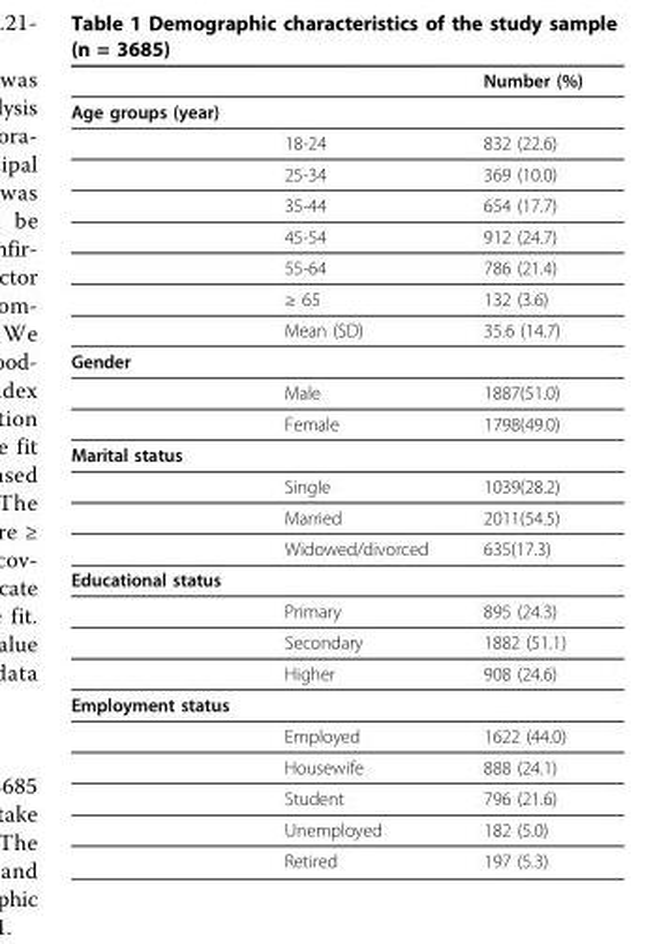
<table><thead><tr><td></td><td></td><td>Number (%)</td></tr></thead><tbody><tr><td colspan="3">Age groups (year)</td></tr><tr><td></td><td>18-24</td><td>832 (22.6)</td></tr><tr><td></td><td>25-34</td><td>369 (10.0)</td></tr><tr><td></td><td>35-44</td><td>654 (17.7)</td></tr><tr><td></td><td>45-54</td><td>912 (24.7)</td></tr><tr><td></td><td>55-64</td><td>786 (21.4)</td></tr><tr><td></td><td>≥ 65</td><td>132 (3.6)</td></tr><tr><td></td><td>Mean (SD)</td><td>35.6 (14.7)</td></tr><tr><td colspan="3">Gender</td></tr><tr><td></td><td>Male</td><td>1887(51.0)</td></tr><tr><td></td><td>Female</td><td>1798(49.0)</td></tr><tr><td colspan="3">Marital status</td></tr><tr><td></td><td>Single</td><td>1039(28.2)</td></tr><tr><td></td><td>Married</td><td>2011(54.5)</td></tr><tr><td></td><td>Widowed/divorced</td><td>635(17.3)</td></tr><tr><td colspan="3">Educational status</td></tr><tr><td></td><td>Primary</td><td>895 (24.3)</td></tr><tr><td></td><td>Secondary</td><td>1882 (51.1)</td></tr><tr><td></td><td>Higher</td><td>908 (24.6)</td></tr><tr><td colspan="3">Employment status</td></tr><tr><td></td><td>Employed</td><td>1622 (44.0)</td></tr><tr><td></td><td>Housewife</td><td>888 (24.1)</td></tr><tr><td></td><td>Student</td><td>796 (21.6)</td></tr><tr><td></td><td>Unemployed</td><td>182 (5.0)</td></tr><tr><td></td><td>Retired</td><td>197 (5.3)</td></tr></tbody></table>